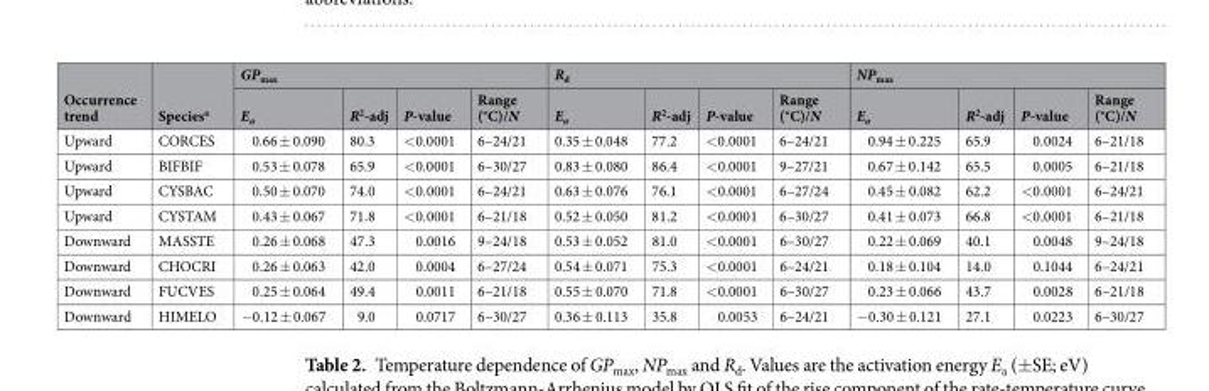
<table><thead><tr><td rowspan="2">Occurrence trend</td><td rowspan="2">Species<sup>a</sup></td><td colspan="4">GP<sub>max</sub></td><td colspan="4">R<sub>d</sub></td><td colspan="4">NP<sub>max</sub></td></tr><tr><td>E<sub>a</sub></td><td>R<sup>2</sup>-adj</td><td>P-value</td><td>Range (°C)/N</td><td>E<sub>a</sub></td><td>R<sup>2</sup>-adj</td><td>P-value</td><td>Range (°C)/N</td><td>E<sub>a</sub></td><td>R<sup>2</sup>-adj</td><td>P-value</td><td>Range (°C)/N</td></tr></thead><tbody><tr><td>Upward</td><td>CORCES</td><td>0.66 ± 0.090</td><td>80.3</td><td>&lt;0.0001</td><td>6–24/21</td><td>0.35 ± 0.048</td><td>77.2</td><td>&lt;0.0001</td><td>6–24/21</td><td>0.94 ± 0.225</td><td>65.9</td><td>0.0024</td><td>6–21/18</td></tr><tr><td>Upward</td><td>BIFBIF</td><td>0.53 ± 0.078</td><td>65.9</td><td>&lt;0.0001</td><td>6–30/27</td><td>0.83 ± 0.080</td><td>86.4</td><td>&lt;0.0001</td><td>9–27/21</td><td>0.67 ± 0.142</td><td>65.5</td><td>0.0005</td><td>6–21/18</td></tr><tr><td>Upward</td><td>CYSBAC</td><td>0.50 ± 0.070</td><td>74.0</td><td>&lt;0.0001</td><td>6–24/21</td><td>0.63 ± 0.076</td><td>76.1</td><td>&lt;0.0001</td><td>6–27/24</td><td>0.45 ± 0.082</td><td>62.2</td><td>&lt;0.0001</td><td>6–24/21</td></tr><tr><td>Upward</td><td>CYSTAM</td><td>0.43 ± 0.067</td><td>71.8</td><td>&lt;0.0001</td><td>6–21/18</td><td>0.52 ± 0.050</td><td>81.2</td><td>&lt;0.0001</td><td>6–30/27</td><td>0.41 ± 0.073</td><td>66.8</td><td>&lt;0.0001</td><td>6–21/18</td></tr><tr><td>Downward</td><td>MASSTE</td><td>0.26 ± 0.068</td><td>47.3</td><td>0.0016</td><td>9–24/18</td><td>0.53 ± 0.052</td><td>81.0</td><td>&lt;0.0001</td><td>6–30/27</td><td>0.22 ± 0.069</td><td>40.1</td><td>0.0048</td><td>9–24/18</td></tr><tr><td>Downward</td><td>CHOCRI</td><td>0.26 ± 0.063</td><td>42.0</td><td>0.0004</td><td>6–27/24</td><td>0.54 ± 0.071</td><td>75.3</td><td>&lt;0.0001</td><td>6–24/21</td><td>0.18 ± 0.104</td><td>14.0</td><td>0.1044</td><td>6–24/21</td></tr><tr><td>Downward</td><td>FUCVES</td><td>0.25 ± 0.064</td><td>49.4</td><td>0.0011</td><td>6–21/18</td><td>0.55 ± 0.070</td><td>71.8</td><td>&lt;0.0001</td><td>6–30/27</td><td>0.23 ± 0.066</td><td>43.7</td><td>0.0028</td><td>6–21/18</td></tr><tr><td>Downward</td><td>HIMELO</td><td>−0.12 ± 0.067</td><td>9.0</td><td>0.0717</td><td>6–30/27</td><td>0.36 ± 0.113</td><td>35.8</td><td>0.0053</td><td>6–24/21</td><td>−0.30 ± 0.121</td><td>27.1</td><td>0.0223</td><td>6–30/27</td></tr></tbody></table>